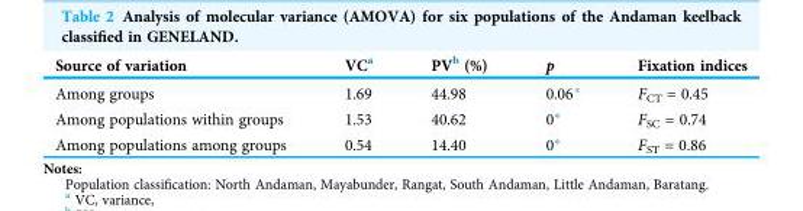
<table><thead><tr><td>Source of variation</td><td>VC<sup>a</sup></td><td>PV<sup>b</sup> (%)</td><td>p</td><td>Fixation indices</td></tr></thead><tbody><tr><td>Among groups</td><td>1.69</td><td>44.98</td><td>0.06*</td><td>F<sub>CT</sub> = 0.45</td></tr><tr><td>Among populations within groups</td><td>1.53</td><td>40.62</td><td>0*</td><td>F<sub>SC</sub> = 0.74</td></tr><tr><td>Among populations among groups</td><td>0.54</td><td>14.40</td><td>0*</td><td>F<sub>ST</sub> = 0.86</td></tr></tbody></table>